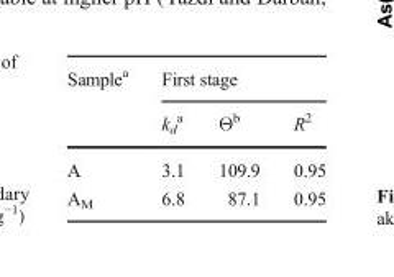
<table><thead><tr><td rowspan="2">Sample<sup>a</sup></td><td colspan="3">First stage</td></tr><tr><td>k<sub>d</sub> <sup>a</sup></td><td>Θ<sup>b</sup></td><td>R<sup>2</sup></td></tr></thead><tbody><tr><td>A</td><td>3.1</td><td>109.9</td><td>0.95</td></tr><tr><td>A<sub>M</sub></td><td>6.8</td><td>87.1</td><td>0.95</td></tr></tbody></table>